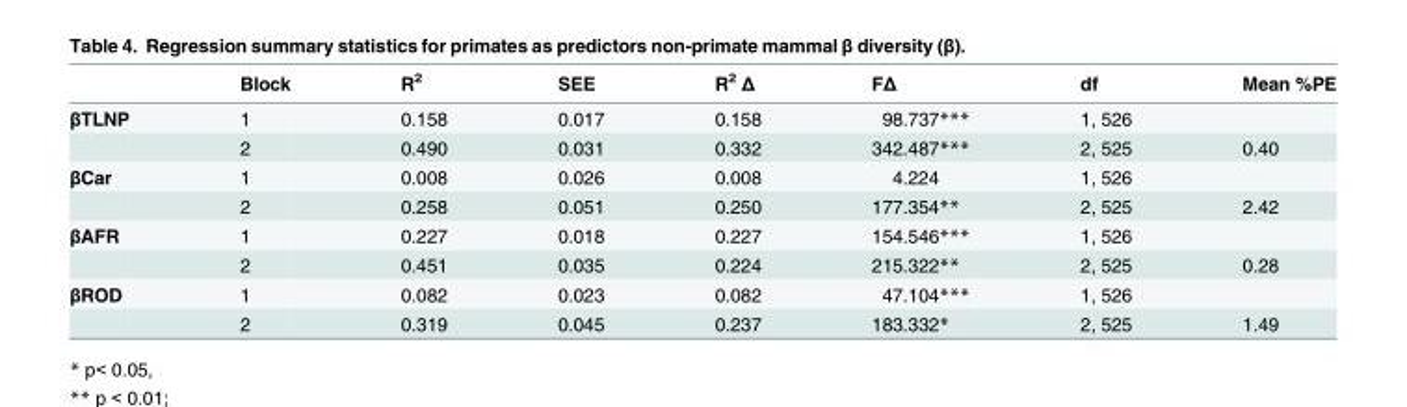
<table><thead><tr><td></td><td>Block</td><td>R<sup>2</sup></td><td>SEE</td><td>R<sup>2</sup> Δ</td><td>FΔ</td><td>df</td><td>Mean %PE</td></tr></thead><tbody><tr><td rowspan="2">βTLNP</td><td>1</td><td>0.158</td><td>0.017</td><td>0.158</td><td>98.737***</td><td>1, 526</td><td></td></tr><tr><td>2</td><td>0.490</td><td>0.031</td><td>0.332</td><td>342.487***</td><td>2, 525</td><td>0.40</td></tr><tr><td rowspan="2">βCar</td><td>1</td><td>0.008</td><td>0.026</td><td>0.008</td><td>4.224</td><td>1, 526</td><td></td></tr><tr><td>2</td><td>0.258</td><td>0.051</td><td>0.250</td><td>177.354**</td><td>2, 525</td><td>2.42</td></tr><tr><td rowspan="2">βAFR</td><td>1</td><td>0.227</td><td>0.018</td><td>0.227</td><td>154.546***</td><td>1, 526</td><td></td></tr><tr><td>2</td><td>0.451</td><td>0.035</td><td>0.224</td><td>215.322**</td><td>2, 525</td><td>0.28</td></tr><tr><td rowspan="2">βROD</td><td>1</td><td>0.082</td><td>0.023</td><td>0.082</td><td>47.104***</td><td>1, 526</td><td></td></tr><tr><td>2</td><td>0.319</td><td>0.045</td><td>0.237</td><td>183.332*</td><td>2, 525</td><td>1.49</td></tr></tbody></table>